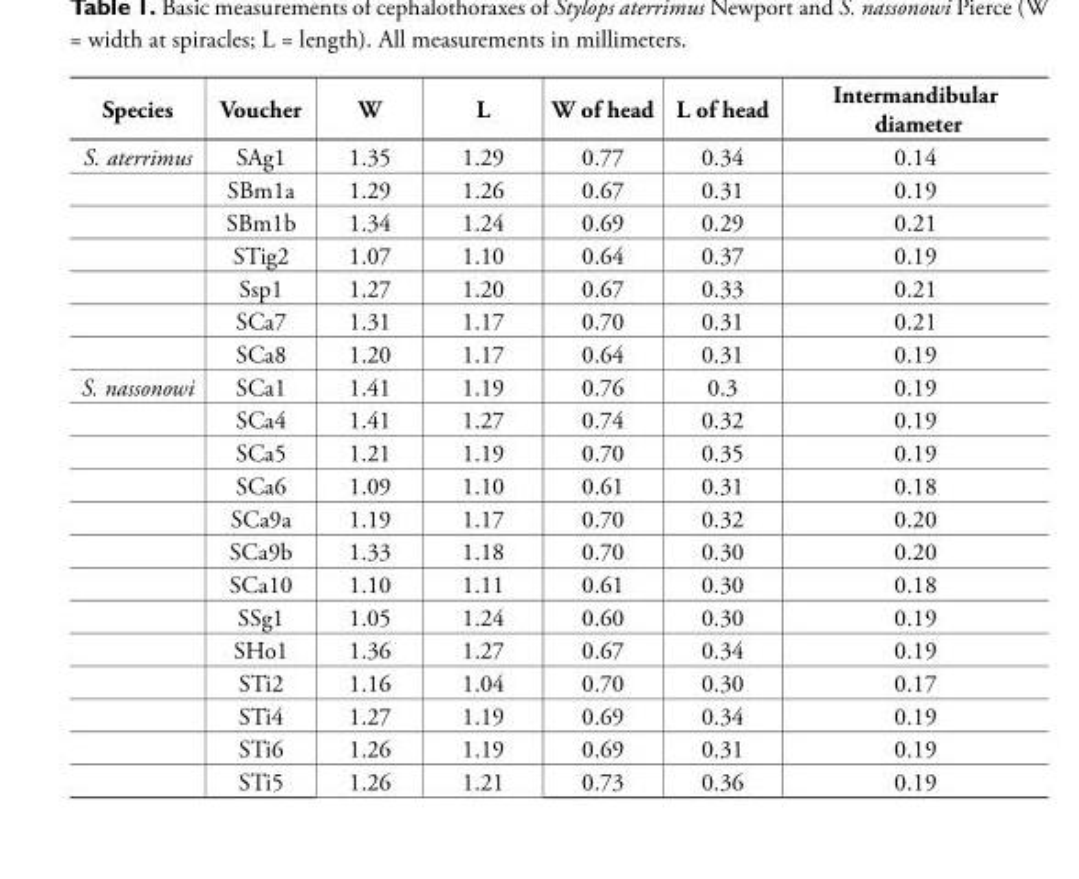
<table><thead><tr><td>Species</td><td>Voucher</td><td>W</td><td>L</td><td>W of head</td><td>L of head</td><td>Intermandibular diameter</td></tr></thead><tbody><tr><td rowspan="7">S. aterrimus</td><td>SAg1</td><td>1.35</td><td>1.29</td><td>0.77</td><td>0.34</td><td>0.14</td></tr><tr><td>SBm1a</td><td>1.29</td><td>1.26</td><td>0.67</td><td>0.31</td><td>0.19</td></tr><tr><td>SBm1b</td><td>1.34</td><td>1.24</td><td>0.69</td><td>0.29</td><td>0.21</td></tr><tr><td>STig2</td><td>1.07</td><td>1.10</td><td>0.64</td><td>0.37</td><td>0.19</td></tr><tr><td>Ssp1</td><td>1.27</td><td>1.20</td><td>0.67</td><td>0.33</td><td>0.21</td></tr><tr><td>SCa7</td><td>1.31</td><td>1.17</td><td>0.70</td><td>0.31</td><td>0.21</td></tr><tr><td>SCa8</td><td>1.20</td><td>1.17</td><td>0.64</td><td>0.31</td><td>0.19</td></tr><tr><td rowspan="13">S. nassonowi</td><td>SCa1</td><td>1.41</td><td>1.19</td><td>0.76</td><td>0.3</td><td>0.19</td></tr><tr><td>SCa4</td><td>1.41</td><td>1.27</td><td>0.74</td><td>0.32</td><td>0.19</td></tr><tr><td>SCa5</td><td>1.21</td><td>1.19</td><td>0.70</td><td>0.35</td><td>0.19</td></tr><tr><td>SCa6</td><td>1.09</td><td>1.10</td><td>0.61</td><td>0.31</td><td>0.18</td></tr><tr><td>SCa9a</td><td>1.19</td><td>1.17</td><td>0.70</td><td>0.32</td><td>0.20</td></tr><tr><td>SCa9b</td><td>1.33</td><td>1.18</td><td>0.70</td><td>0.30</td><td>0.20</td></tr><tr><td>SCa10</td><td>1.10</td><td>1.11</td><td>0.61</td><td>0.30</td><td>0.18</td></tr><tr><td>SSg1</td><td>1.05</td><td>1.24</td><td>0.60</td><td>0.30</td><td>0.19</td></tr><tr><td>SHo1</td><td>1.36</td><td>1.27</td><td>0.67</td><td>0.34</td><td>0.19</td></tr><tr><td>STi2</td><td>1.16</td><td>1.04</td><td>0.70</td><td>0.30</td><td>0.17</td></tr><tr><td>STi4</td><td>1.27</td><td>1.19</td><td>0.69</td><td>0.34</td><td>0.19</td></tr><tr><td>STi6</td><td>1.26</td><td>1.19</td><td>0.69</td><td>0.31</td><td>0.19</td></tr><tr><td>STi5</td><td>1.26</td><td>1.21</td><td>0.73</td><td>0.36</td><td>0.19</td></tr></tbody></table>